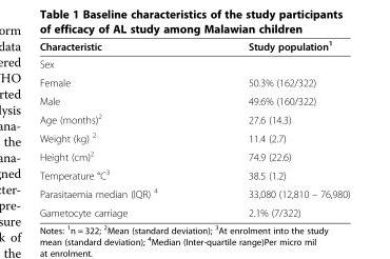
<table><thead><tr><td>Characteristic</td><td>Study population<sup>1</sup></td></tr></thead><tbody><tr><td colspan="2">Sex</td></tr><tr><td>Female</td><td>50.3% (162/322)</td></tr><tr><td>Male</td><td>49.6% (160/322)</td></tr><tr><td>Age (months)<sup>2</sup></td><td>27.6 (14.3)</td></tr><tr><td>Weight (kg) <sup>2</sup></td><td>11.4 (2.7)</td></tr><tr><td>Height (cm)<sup>2</sup></td><td>74.9 (22.6)</td></tr><tr><td>Temperature °C<sup>3</sup></td><td>38.5 (1.2)</td></tr><tr><td>Parasitaemia median (IQR) <sup>4</sup></td><td>33,080 (12,810 – 76,980)</td></tr><tr><td>Gametocyte carriage</td><td>2.1% (7/322)</td></tr></tbody></table>